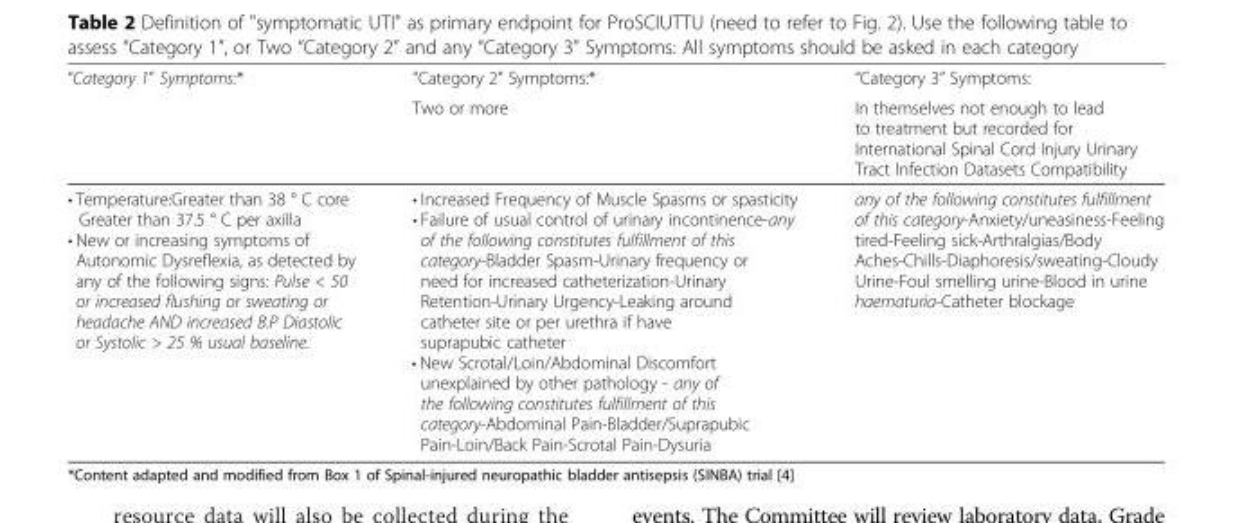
<table><thead><tr><td rowspan="2">“Category 1” Symptoms:*</td><td rowspan="2">“Category 2” Symptoms:* Two or more</td><td rowspan="2">“Category 3” Symptoms: In themselves not enough to lead to treatment but recorded for International Spinal Cord Injury Urinary Tract Infection Datasets Compatibility</td></tr><tr></tr></thead><tbody><tr><td>• Temperature:Greater than 38 ° C core Greater than 37.5 ° C per axilla • New or increasing symptoms of Autonomic Dysreflexia, as detected by any of the following signs: Pulse &lt; 50 or increased flushing or sweating or headache AND increased B.P Diastolic or Systolic &gt; 25 % usual baseline.</td><td>• Increased Frequency of Muscle Spasms or spasticity • Failure of usual control of urinary incontinence-any of the following constitutes fulfillment of this category-Bladder Spasm-Urinary frequency or need for increased catheterization-Urinary Retention-Urinary Urgency-Leaking around catheter site or per urethra if have suprapubic catheter • New Scrotal/Loin/Abdominal Discomfort unexplained by other pathology - any of the following constitutes fulfillment of this category-Abdominal Pain-Bladder/Suprapubic Pain-Loin/Back Pain-Scrotal Pain-Dysuria</td><td>any of the following constitutes fulfillment of this category-Anxiety/uneasiness-Feeling tired-Feeling sick-Arthralgias/Body Aches-Chills-Diaphoresis/sweating-Cloudy Urine-Foul smelling urine-Blood in urine haematuria-Catheter blockage</td></tr></tbody></table>